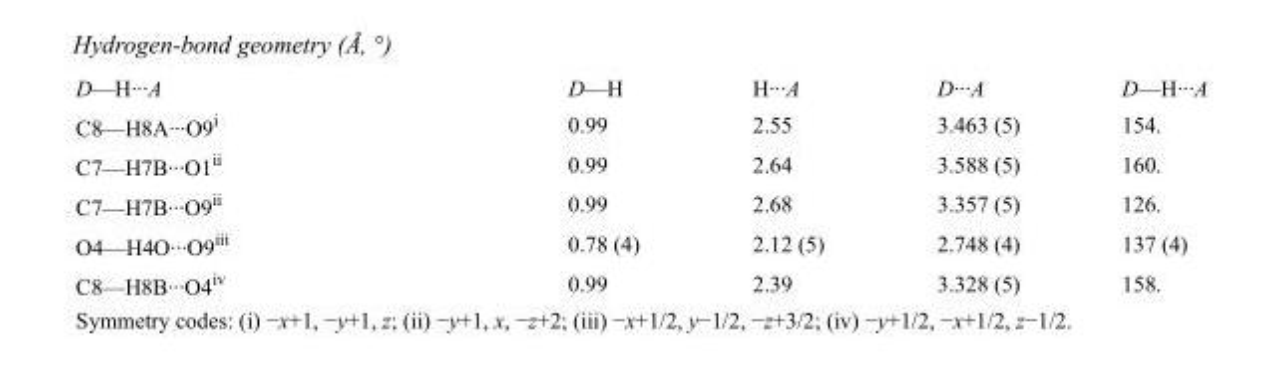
<table><tbody><tr><td>D—H···A</td><td>D—H</td><td>H···A</td><td>D···A</td><td>D—H···A</td></tr><tr><td>C8—H8A···O9<sup>i</sup></td><td>0.99</td><td>2.55</td><td>3.463 (5)</td><td>154.</td></tr><tr><td>C7—H7B···O1<sup>ii</sup></td><td>0.99</td><td>2.64</td><td>3.588 (5)</td><td>160.</td></tr><tr><td>C7—H7B···O9<sup>ii</sup></td><td>0.99</td><td>2.68</td><td>3.357 (5)</td><td>126.</td></tr><tr><td>O4—H4O···O9<sup>iii</sup></td><td>0.78 (4)</td><td>2.12 (5)</td><td>2.748 (4)</td><td>137 (4)</td></tr><tr><td>C8—H8B···O4<sup>iv</sup></td><td>0.99</td><td>2.39</td><td>3.328 (5)</td><td>158.</td></tr></tbody></table>